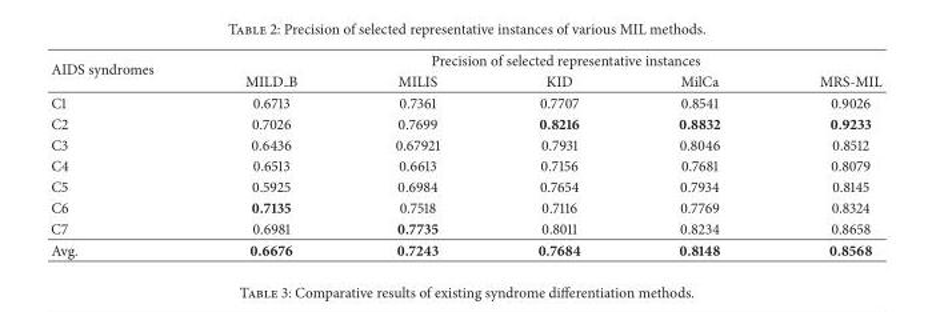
<table><thead><tr><td rowspan="2">AIDS syndromes</td><td colspan="5">Precision of selected representative instances</td></tr><tr><td>MILD B</td><td>MILIS</td><td>KID</td><td>MilCa</td><td>MRS-MIL</td></tr></thead><tbody><tr><td>C1</td><td>0.6713</td><td>0.7361</td><td>0.7707</td><td>0.8541</td><td>0.9026</td></tr><tr><td>C2</td><td>0.7026</td><td>0.7699</td><td>0.8216</td><td>0.8832</td><td>0.9233</td></tr><tr><td>C3</td><td>0.6436</td><td>0.67921</td><td>0.7931</td><td>0.8046</td><td>0.8512</td></tr><tr><td>C4</td><td>0.6513</td><td>0.6613</td><td>0.7156</td><td>0.7681</td><td>0.8079</td></tr><tr><td>C5</td><td>0.5925</td><td>0.6984</td><td>0.7654</td><td>0.7934</td><td>0.8145</td></tr><tr><td>C6</td><td>0.7135</td><td>0.7518</td><td>0.7116</td><td>0.7769</td><td>0.8324</td></tr><tr><td>C7</td><td>0.6981</td><td>0.7735</td><td>0.8011</td><td>0.8234</td><td>0.8658</td></tr><tr><td>Avg.</td><td>0.6676</td><td>0.7243</td><td>0.7684</td><td>0.8148</td><td>0.8568</td></tr></tbody></table>